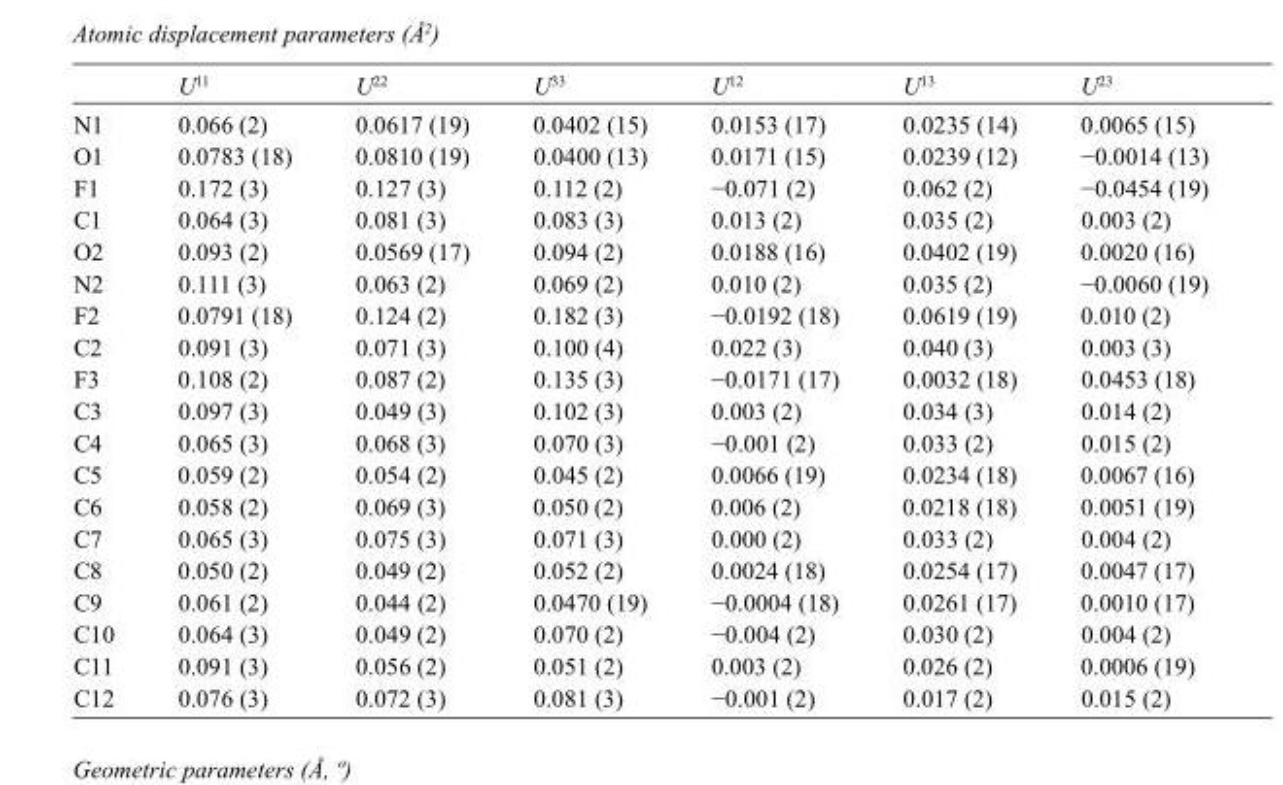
<table><thead><tr><td></td><td>U<sup>11</sup></td><td>U<sup>22</sup></td><td>U<sup>33</sup></td><td>U<sup>12</sup></td><td>U<sup>13</sup></td><td>U<sup>23</sup></td></tr></thead><tbody><tr><td>N1</td><td>0.066 (2)</td><td>0.0617 (19)</td><td>0.0402 (15)</td><td>0.0153 (17)</td><td>0.0235 (14)</td><td>0.0065 (15)</td></tr><tr><td>O1</td><td>0.0783 (18)</td><td>0.0810 (19)</td><td>0.0400 (13)</td><td>0.0171 (15)</td><td>0.0239 (12)</td><td>−0.0014 (13)</td></tr><tr><td>F1</td><td>0.172 (3)</td><td>0.127 (3)</td><td>0.112 (2)</td><td>−0.071 (2)</td><td>0.062 (2)</td><td>−0.0454 (19)</td></tr><tr><td>C1</td><td>0.064 (3)</td><td>0.081 (3)</td><td>0.083 (3)</td><td>0.013 (2)</td><td>0.035 (2)</td><td>0.003 (2)</td></tr><tr><td>O2</td><td>0.093 (2)</td><td>0.0569 (17)</td><td>0.094 (2)</td><td>0.0188 (16)</td><td>0.0402 (19)</td><td>0.0020 (16)</td></tr><tr><td>N2</td><td>0.111 (3)</td><td>0.063 (2)</td><td>0.069 (2)</td><td>0.010 (2)</td><td>0.035 (2)</td><td>−0.0060 (19)</td></tr><tr><td>F2</td><td>0.0791 (18)</td><td>0.124 (2)</td><td>0.182 (3)</td><td>−0.0192 (18)</td><td>0.0619 (19)</td><td>0.010 (2)</td></tr><tr><td>C2</td><td>0.091 (3)</td><td>0.071 (3)</td><td>0.100 (4)</td><td>0.022 (3)</td><td>0.040 (3)</td><td>0.003 (3)</td></tr><tr><td>F3</td><td>0.108 (2)</td><td>0.087 (2)</td><td>0.135 (3)</td><td>−0.0171 (17)</td><td>0.0032 (18)</td><td>0.0453 (18)</td></tr><tr><td>C3</td><td>0.097 (3)</td><td>0.049 (3)</td><td>0.102 (3)</td><td>0.003 (2)</td><td>0.034 (3)</td><td>0.014 (2)</td></tr><tr><td>C4</td><td>0.065 (3)</td><td>0.068 (3)</td><td>0.070 (3)</td><td>−0.001 (2)</td><td>0.033 (2)</td><td>0.015 (2)</td></tr><tr><td>C5</td><td>0.059 (2)</td><td>0.054 (2)</td><td>0.045 (2)</td><td>0.0066 (19)</td><td>0.0234 (18)</td><td>0.0067 (16)</td></tr><tr><td>C6</td><td>0.058 (2)</td><td>0.069 (3)</td><td>0.050 (2)</td><td>0.006 (2)</td><td>0.0218 (18)</td><td>0.0051 (19)</td></tr><tr><td>C7</td><td>0.065 (3)</td><td>0.075 (3)</td><td>0.071 (3)</td><td>0.000 (2)</td><td>0.033 (2)</td><td>0.004 (2)</td></tr><tr><td>C8</td><td>0.050 (2)</td><td>0.049 (2)</td><td>0.052 (2)</td><td>0.0024 (18)</td><td>0.0254 (17)</td><td>0.0047 (17)</td></tr><tr><td>C9</td><td>0.061 (2)</td><td>0.044 (2)</td><td>0.0470 (19)</td><td>−0.0004 (18)</td><td>0.0261 (17)</td><td>0.0010 (17)</td></tr><tr><td>C10</td><td>0.064 (3)</td><td>0.049 (2)</td><td>0.070 (2)</td><td>−0.004 (2)</td><td>0.030 (2)</td><td>0.004 (2)</td></tr><tr><td>C11</td><td>0.091 (3)</td><td>0.056 (2)</td><td>0.051 (2)</td><td>0.003 (2)</td><td>0.026 (2)</td><td>0.0006 (19)</td></tr><tr><td>C12</td><td>0.076 (3)</td><td>0.072 (3)</td><td>0.081 (3)</td><td>−0.001 (2)</td><td>0.017 (2)</td><td>0.015 (2)</td></tr></tbody></table>